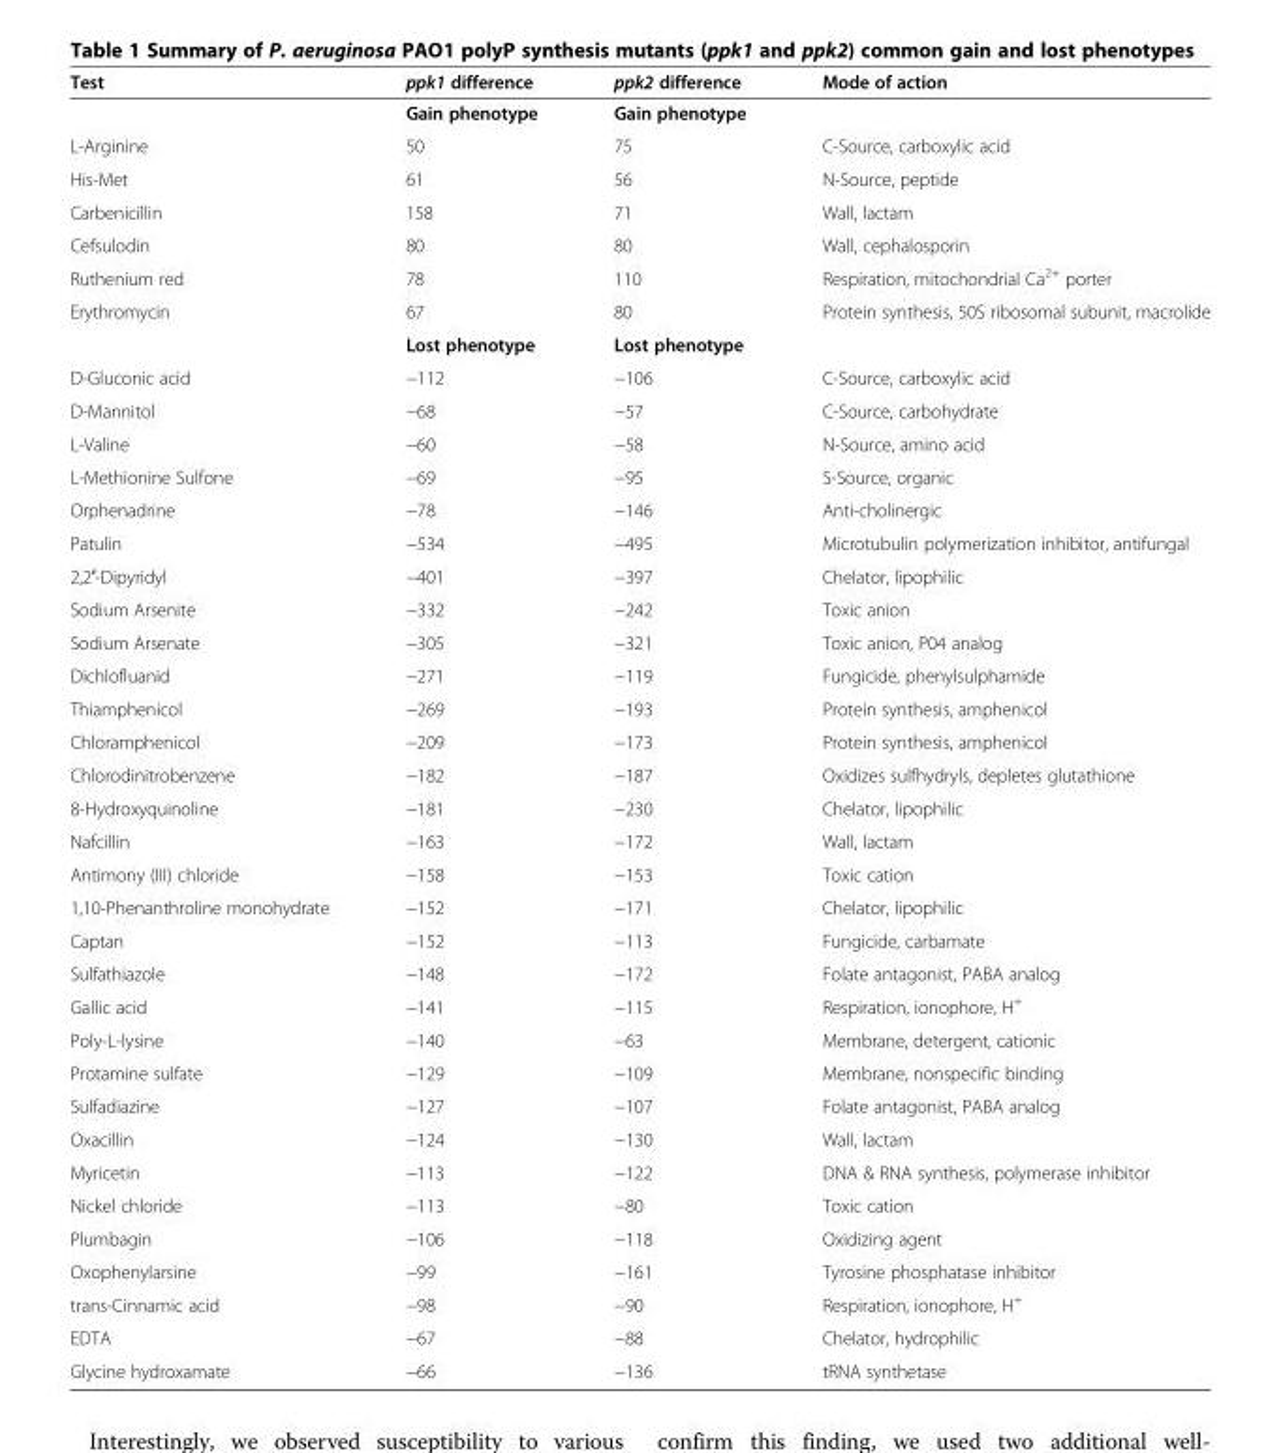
<table><thead><tr><td>Test</td><td>ppk1 difference</td><td>ppk2 difference</td><td>Mode of action</td></tr></thead><tbody><tr><td></td><td>Gain phenotype</td><td>Gain phenotype</td><td></td></tr><tr><td>L-Arginine</td><td>50</td><td>75</td><td>C-Source, carboxylic acid</td></tr><tr><td>His-Met</td><td>61</td><td>56</td><td>N-Source, peptide</td></tr><tr><td>Carbenicillin</td><td>158</td><td>71</td><td>Wall, lactam</td></tr><tr><td>Cefsulodin</td><td>80</td><td>80</td><td>Wall, cephalosporin</td></tr><tr><td>Ruthenium red</td><td>78</td><td>110</td><td>Respiration, mitochondrial Ca<sup>2+</sup> porter</td></tr><tr><td rowspan="2">Erythromycin</td><td>67</td><td>80</td><td>Protein synthesis, 50S ribosomal subunit, macrolide</td></tr><tr><td>Lost phenotype</td><td>Lost phenotype</td><td></td></tr><tr><td>D-Gluconic acid</td><td>−112</td><td>−106</td><td>C-Source, carboxylic acid</td></tr><tr><td>D-Mannitol</td><td>−68</td><td>−57</td><td>C-Source, carbohydrate</td></tr><tr><td>L-Valine</td><td>−60</td><td>−58</td><td>N-Source, amino acid</td></tr><tr><td>L-Methionine Sulfone</td><td>−69</td><td>−95</td><td>S-Source, organic</td></tr><tr><td>Orphenadrine</td><td>−78</td><td>−146</td><td>Anti-cholinergic</td></tr><tr><td>Patulin</td><td>−534</td><td>−495</td><td>Microtubulin polymerization inhibitor, antifungal</td></tr><tr><td>2,2′-Dipyridyl</td><td>−401</td><td>−397</td><td>Chelator, lipophilic</td></tr><tr><td>Sodium Arsenite</td><td>−332</td><td>−242</td><td>Toxic anion</td></tr><tr><td>Sodium Arsenate</td><td>−305</td><td>−321</td><td>Toxic anion, P04 analog</td></tr><tr><td>Dichlofluanid</td><td>−271</td><td>−119</td><td>Fungicide, phenylsulphamide</td></tr><tr><td>Thiamphenicol</td><td>−269</td><td>−193</td><td>Protein synthesis, amphenicol</td></tr><tr><td>Chloramphenicol</td><td>−209</td><td>−173</td><td>Protein synthesis, amphenicol</td></tr><tr><td>Chlorodinitrobenzene</td><td>−182</td><td>−187</td><td>Oxidizes sulfhydryls, depletes glutathione</td></tr><tr><td>8-Hydroxyquinoline</td><td>−181</td><td>−230</td><td>Chelator, lipophilic</td></tr><tr><td>Nafcillin</td><td>−163</td><td>−172</td><td>Wall, lactam</td></tr><tr><td>Antimony (III) chloride</td><td>−158</td><td>−153</td><td>Toxic cation</td></tr><tr><td>1,10-Phenanthroline monohydrate</td><td>−152</td><td>−171</td><td>Chelator, lipophilic</td></tr><tr><td>Captan</td><td>−152</td><td>−113</td><td>Fungicide, carbamate</td></tr><tr><td>Sulfathiazole</td><td>−148</td><td>−172</td><td>Folate antagonist, PABA analog</td></tr><tr><td>Gallic acid</td><td>−141</td><td>−115</td><td>Respiration, ionophore, H<sup>+</sup></td></tr><tr><td>Poly-L-lysine</td><td>−140</td><td>−63</td><td>Membrane, detergent, cationic</td></tr><tr><td>Protamine sulfate</td><td>−129</td><td>−109</td><td>Membrane, nonspecific binding</td></tr><tr><td>Sulfadiazine</td><td>−127</td><td>−107</td><td>Folate antagonist, PABA analog</td></tr><tr><td>Oxacillin</td><td>−124</td><td>−130</td><td>Wall, lactam</td></tr><tr><td>Myricetin</td><td>−113</td><td>−122</td><td>DNA &amp; RNA synthesis, polymerase inhibitor</td></tr><tr><td>Nickel chloride</td><td>−113</td><td>−80</td><td>Toxic cation</td></tr><tr><td>Plumbagin</td><td>−106</td><td>−118</td><td>Oxidizing agent</td></tr><tr><td>Oxophenylarsine</td><td>−99</td><td>−161</td><td>Tyrosine phosphatase inhibitor</td></tr><tr><td>trans-Cinnamic acid</td><td>−98</td><td>−90</td><td>Respiration, ionophore, H<sup>+</sup></td></tr><tr><td>EDTA</td><td>−67</td><td>−88</td><td>Chelator, hydrophilic</td></tr><tr><td>Glycine hydroxamate</td><td>−66</td><td>−136</td><td>tRNA synthetase</td></tr></tbody></table>